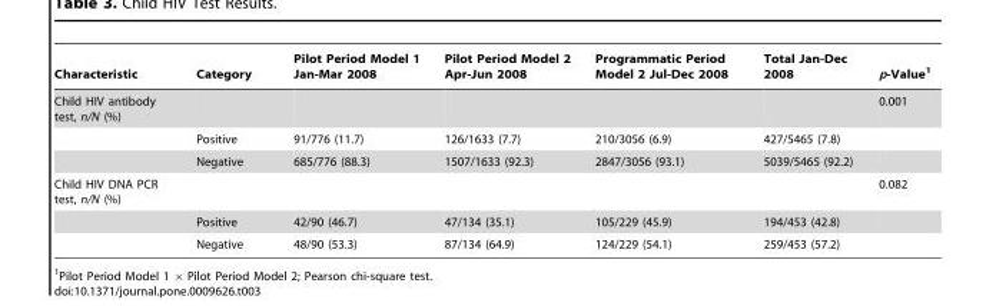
<table><thead><tr><td>Characteristic</td><td>Category</td><td>Pilot Period Model 1 Jan-Mar 2008</td><td>Pilot Period Model 2 Apr-Jun 2008</td><td>Programmatic Period Model 2 Jul-Dec 2008</td><td>Total Jan-Dec 2008</td><td>p-Value<sup>1</sup></td></tr></thead><tbody><tr><td rowspan="3">Child HIV antibody test, n/N (%)</td><td></td><td></td><td></td><td></td><td></td><td>0.001</td></tr><tr><td>Positive</td><td>91/776 (11.7)</td><td>126/1633 (7.7)</td><td>210/3056 (6.9)</td><td>427/5465 (7.8)</td><td></td></tr><tr><td>Negative</td><td>685/776 (88.3)</td><td>1507/1633 (92.3)</td><td>2847/3056 (93.1)</td><td>5039/5465 (92.2)</td><td></td></tr><tr><td rowspan="3">Child HIV DNA PCR test, n/N (%)</td><td></td><td></td><td></td><td></td><td></td><td>0.082</td></tr><tr><td>Positive</td><td>42/90 (46.7)</td><td>47/134 (35.1)</td><td>105/229 (45.9)</td><td>194/453 (42.8)</td><td></td></tr><tr><td>Negative</td><td>48/90 (53.3)</td><td>87/134 (64.9)</td><td>124/229 (54.1)</td><td>259/453 (57.2)</td><td></td></tr></tbody></table>